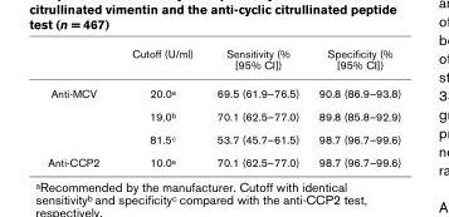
<table><thead><tr><td></td><td>Cutoff (U/ml)</td><td>Sensitivity (% [95% CI])</td><td>Specificity (% [95% CI])</td></tr></thead><tbody><tr><td rowspan="3">Anti-MCV</td><td>20.0a</td><td>69.5 (61.9–76.5)</td><td>90.8 (86.9–93.8)</td></tr><tr><td>19.0b</td><td>70.1 (62.5–77.0)</td><td>89.8 (85.8–92.9)</td></tr><tr><td>81.5c</td><td>53.7 (45.7–61.5)</td><td>98.7 (96.7–99.6)</td></tr><tr><td>Anti-CCP2</td><td>10.0a</td><td>70.1 (62.5–77.0)</td><td>98.7 (96.7–99.6)</td></tr></tbody></table>